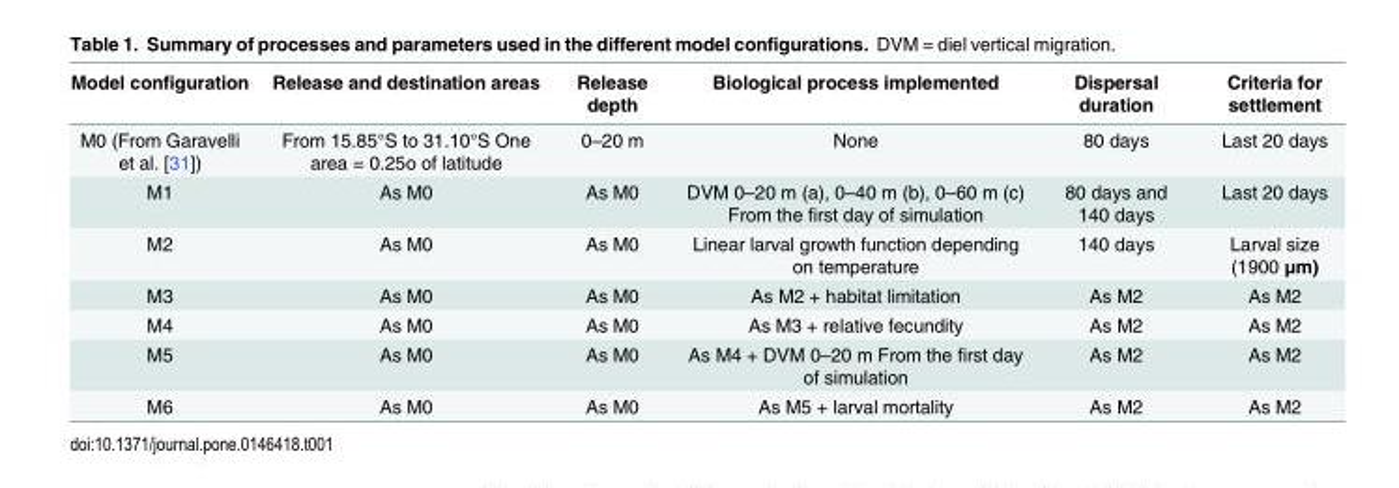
<table><thead><tr><td>Model configuration</td><td>Release and destination areas</td><td>Release depth</td><td>Biological process implemented</td><td>Dispersal duration</td><td>Criteria for settlement</td></tr></thead><tbody><tr><td>M0 (From Garavelli et al. [31])</td><td>From 15.85°S to 31.10°S One area = 0.25o of latitude</td><td>0–20 m</td><td>None</td><td>80 days</td><td>Last 20 days</td></tr><tr><td>M1</td><td>As M0</td><td>As M0</td><td>DVM 0–20 m (a), 0–40 m (b), 0–60 m (c) From the first day of simulation</td><td>80 days and 140 days</td><td>Last 20 days</td></tr><tr><td>M2</td><td>As M0</td><td>As M0</td><td>Linear larval growth function depending on temperature</td><td>140 days</td><td>Larval size (1900 μm)</td></tr><tr><td>M3</td><td>As M0</td><td>As M0</td><td>As M2 + habitat limitation</td><td>As M2</td><td>As M2</td></tr><tr><td>M4</td><td>As M0</td><td>As M0</td><td>As M3 + relative fecundity</td><td>As M2</td><td>As M2</td></tr><tr><td>M5</td><td>As M0</td><td>As M0</td><td>As M4 + DVM 0–20 m From the first day of simulation</td><td>As M2</td><td>As M2</td></tr><tr><td>M6</td><td>As M0</td><td>As M0</td><td>As M5 + larval mortality</td><td>As M2</td><td>As M2</td></tr></tbody></table>